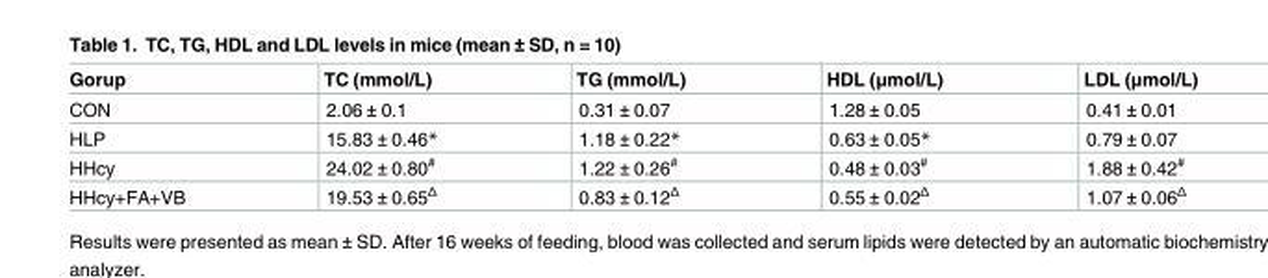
<table><thead><tr><td>Gorup</td><td>TC (mmol/L)</td><td>TG (mmol/L)</td><td>HDL (μmol/L)</td><td>LDL (μmol/L)</td></tr></thead><tbody><tr><td>CON</td><td>2.06 ± 0.1</td><td>0.31 ± 0.07</td><td>1.28 ± 0.05</td><td>0.41 ± 0.01</td></tr><tr><td>HLP</td><td>15.83 ± 0.46*</td><td>1.18 ± 0.22*</td><td>0.63 ± 0.05*</td><td>0.79 ± 0.07</td></tr><tr><td>HHcy</td><td>24.02 ± 0.80<sup>#</sup></td><td>1.22 ± 0.26<sup>#</sup></td><td>0.48 ± 0.03<sup>#</sup></td><td>1.88 ± 0.42<sup>#</sup></td></tr><tr><td>HHcy+FA+VB</td><td>19.53 ± 0.65<sup>Δ</sup></td><td>0.83 ± 0.12<sup>Δ</sup></td><td>0.55 ± 0.02<sup>Δ</sup></td><td>1.07 ± 0.06<sup>Δ</sup></td></tr></tbody></table>